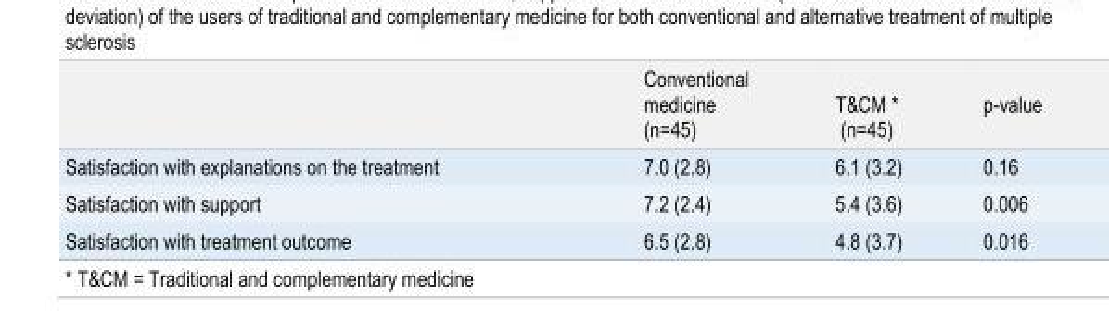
<table><thead><tr><td></td><td>Conventional medicine (n=45)</td><td>T&amp;CM * (n=45)</td><td>p-value</td></tr></thead><tbody><tr><td>Satisfaction with explanations on the treatment</td><td>7.0 (2.8)</td><td>6.1 (3.2)</td><td>0.16</td></tr><tr><td>Satisfaction with support</td><td>7.2 (2.4)</td><td>5.4 (3.6)</td><td>0.006</td></tr><tr><td>Satisfaction with treatment outcome</td><td>6.5 (2.8)</td><td>4.8 (3.7)</td><td>0.016</td></tr></tbody></table>